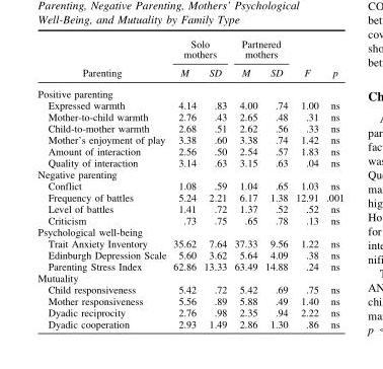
<table><thead><tr><td rowspan="2">Parenting</td><td colspan="2">Solo mothers</td><td colspan="2">Partnered mothers</td><td rowspan="2">F</td><td rowspan="2">p</td></tr><tr><td>M</td><td>SD</td><td>M</td><td>SD</td></tr></thead><tbody><tr><td colspan="7">Positive parenting</td></tr><tr><td>Expressed warmth</td><td>4.14</td><td>.83</td><td>4.00</td><td>.74</td><td>1.00</td><td>ns</td></tr><tr><td>Mother-to-child warmth</td><td>2.76</td><td>.43</td><td>2.65</td><td>.48</td><td>.31</td><td>ns</td></tr><tr><td>Child-to-mother warmth</td><td>2.68</td><td>.51</td><td>2.62</td><td>.56</td><td>.33</td><td>ns</td></tr><tr><td>Mother’s enjoyment of play</td><td>3.38</td><td>.60</td><td>3.38</td><td>.74</td><td>1.42</td><td>ns</td></tr><tr><td>Amount of interaction</td><td>2.56</td><td>.50</td><td>2.54</td><td>.57</td><td>1.83</td><td>ns</td></tr><tr><td>Quality of interaction</td><td>3.14</td><td>.63</td><td>3.15</td><td>.63</td><td>.04</td><td>ns</td></tr><tr><td colspan="7">Negative parenting</td></tr><tr><td>Conflict</td><td>1.08</td><td>.59</td><td>1.04</td><td>.65</td><td>1.03</td><td>ns</td></tr><tr><td>Frequency of battles</td><td>5.24</td><td>2.21</td><td>6.17</td><td>1.38</td><td>12.91</td><td>.001</td></tr><tr><td>Level of battles</td><td>1.41</td><td>.72</td><td>1.37</td><td>.52</td><td>.52</td><td>ns</td></tr><tr><td>Criticism</td><td>.73</td><td>.75</td><td>.65</td><td>.78</td><td>.13</td><td>ns</td></tr><tr><td colspan="7">Psychological well-being</td></tr><tr><td>Trait Anxiety Inventory</td><td>35.62</td><td>7.64</td><td>37.33</td><td>9.56</td><td>1.22</td><td>ns</td></tr><tr><td>Edinburgh Depression Scale</td><td>5.60</td><td>3.62</td><td>5.64</td><td>4.09</td><td>.38</td><td>ns</td></tr><tr><td>Parenting Stress Index</td><td>62.86</td><td>13.33</td><td>63.49</td><td>14.88</td><td>.24</td><td>ns</td></tr><tr><td colspan="7">Mutuality</td></tr><tr><td>Child responsiveness</td><td>5.42</td><td>.72</td><td>5.42</td><td>.69</td><td>.75</td><td>ns</td></tr><tr><td>Mother responsiveness</td><td>5.56</td><td>.89</td><td>5.88</td><td>.49</td><td>1.40</td><td>ns</td></tr><tr><td>Dyadic reciprocity</td><td>2.76</td><td>.98</td><td>2.35</td><td>.94</td><td>2.22</td><td>ns</td></tr><tr><td>Dyadic cooperation</td><td>2.93</td><td>1.49</td><td>2.86</td><td>1.30</td><td>.86</td><td>ns</td></tr></tbody></table>